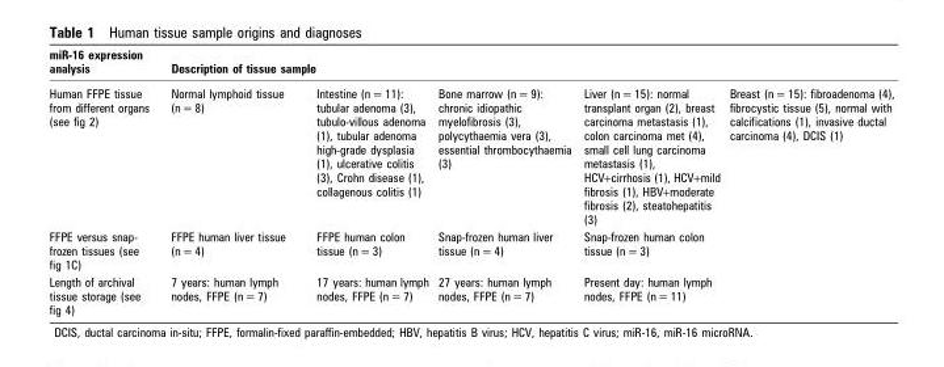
<table><thead><tr><td rowspan="2">miR-16 expression analysis Human FFPE tissue from different organs (see fig 2)</td><td colspan="5">Description of tissue sample</td></tr><tr><td>Normal lymphoid tissue (n = 8)</td><td>Intestine (n = 11): tubular adenoma (3), tubulo-villous adenoma (1), tubular adenoma high-grade dysplasia (1), ulcerative colitis (3), Crohn disease (1), collagenous colitis (1)</td><td>Bone marrow (n = 9): chronic idiopathic myelofibrosis (3), polycythaemia vera (3), essential thrombocythaemia (3)</td><td>Liver (n = 15): normal transplant organ (2), breast carcinoma metastasis (1), colon carcinoma met (4), small cell lung carcinoma metastasis (1), HCV+cirrhosis (1), HCV+mild fibrosis (1), HBV+moderate fibrosis (2), steatohepatitis (3)</td><td>Breast (n = 15): fibroadenoma (4), fibrocystic tissue (5), normal with calcifications (1), invasive ductal carcinoma (4), DCIS (1)</td></tr></thead><tbody><tr><td>FFPE versus snap- frozen tissues (see fig 1C)</td><td>FFPE human liver tissue (n = 4)</td><td>FFPE human colon tissue (n = 3)</td><td>Snap-frozen human liver tissue (n = 4)</td><td>Snap-frozen human colon tissue (n = 3)</td><td></td></tr><tr><td>Length of archival tissue storage (see fig 4)</td><td>7 years: human lymph nodes, FFPE (n = 7)</td><td>17 years: human lymph nodes, FFPE (n = 7)</td><td>27 years: human lymph nodes, FFPE (n = 7)</td><td>Present day: human lymph nodes, FFPE (n = 11)</td><td></td></tr></tbody></table>